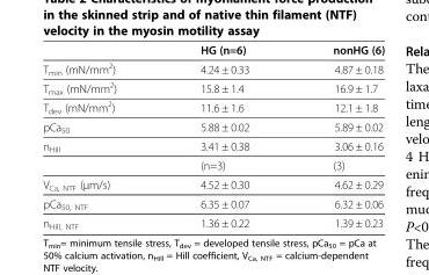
<table><thead><tr><td></td><td>HG (n=6)</td><td>nonHG (6)</td></tr></thead><tbody><tr><td>T<sub>min</sub> (mN/mm<sup>2</sup>)</td><td>4.24 ± 0.33</td><td>4.87 ± 0.18</td></tr><tr><td>T<sub>max</sub> (mN/mm<sup>2</sup>)</td><td>15.8 ± 1.4</td><td>16.9 ± 1.7</td></tr><tr><td>T<sub>dev</sub> (mN/mm<sup>2</sup>)</td><td>11.6 ± 1.6</td><td>12.1 ± 1.8</td></tr><tr><td>pCa<sub>50</sub></td><td>5.88 ± 0.02</td><td>5.89 ± 0.02</td></tr><tr><td rowspan="2">n<sub>Hill</sub></td><td>3.41 ± 0.38</td><td>3.06 ± 0.16</td></tr><tr><td>(n=3)</td><td>(3)</td></tr><tr><td>V<sub>Ca, NTF</sub> (µm/s)</td><td>4.52 ± 0.30</td><td>4.62 ± 0.29</td></tr><tr><td>pCa<sub>50, NTF</sub></td><td>6.35 ± 0.07</td><td>6.32 ± 0.06</td></tr><tr><td>n<sub>Hill, NTF</sub></td><td>1.36 ± 0.22</td><td>1.39 ± 0.23</td></tr></tbody></table>